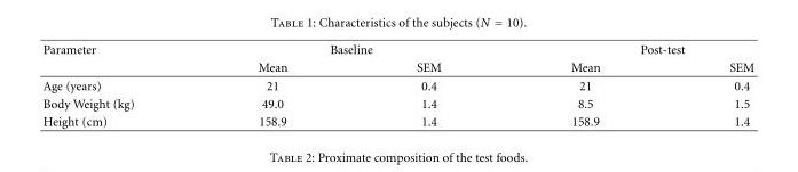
<table><thead><tr><td rowspan="2">Parameter</td><td colspan="2">Baseline</td><td colspan="2">Post-test</td></tr><tr><td>Mean</td><td>SEM</td><td>Mean</td><td>SEM</td></tr></thead><tbody><tr><td>Age (years)</td><td>21</td><td>0.4</td><td>21</td><td>0.4</td></tr><tr><td>Body Weight (kg)</td><td>49.0</td><td>1.4</td><td>8.5</td><td>1.5</td></tr><tr><td>Height (cm)</td><td>158.9</td><td>1.4</td><td>158.9</td><td>1.4</td></tr></tbody></table>